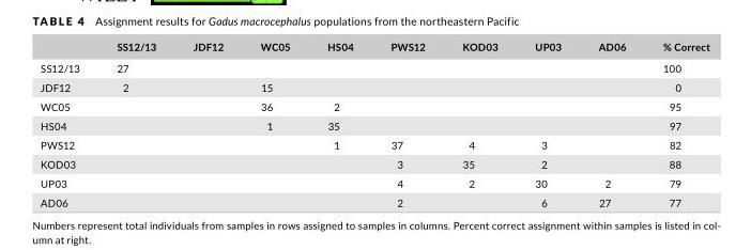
<table><thead><tr><td></td><td>SS12/13</td><td>JDF12</td><td>WC05</td><td>HS04</td><td>PWS12</td><td>KOD03</td><td>UP03</td><td>AD06</td><td>% Correct</td></tr></thead><tbody><tr><td>SS12/13</td><td>27</td><td></td><td></td><td></td><td></td><td></td><td></td><td></td><td>100</td></tr><tr><td>JDF12</td><td>2</td><td></td><td>15</td><td></td><td></td><td></td><td></td><td></td><td>0</td></tr><tr><td>WC05</td><td></td><td></td><td>36</td><td>2</td><td></td><td></td><td></td><td></td><td>95</td></tr><tr><td>HS04</td><td></td><td></td><td>1</td><td>35</td><td></td><td></td><td></td><td></td><td>97</td></tr><tr><td>PWS12</td><td></td><td></td><td></td><td>1</td><td>37</td><td>4</td><td>3</td><td></td><td>82</td></tr><tr><td>KOD03</td><td></td><td></td><td></td><td></td><td>3</td><td>35</td><td>2</td><td></td><td>88</td></tr><tr><td>UP03</td><td></td><td></td><td></td><td></td><td>4</td><td>2</td><td>30</td><td>2</td><td>79</td></tr><tr><td>AD06</td><td></td><td></td><td></td><td></td><td>2</td><td></td><td>6</td><td>27</td><td>77</td></tr></tbody></table>